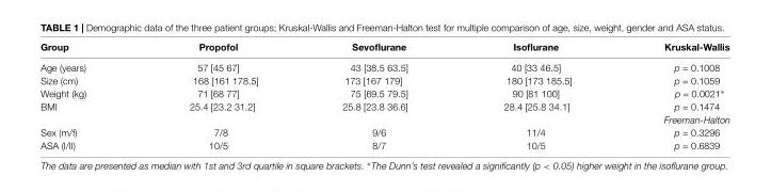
<table><thead><tr><td>Group</td><td>Propofol</td><td>Sevoflurane</td><td>Isoflurane</td><td>Kruskal-Wallis</td></tr></thead><tbody><tr><td>Age (years)</td><td>57 [45 67]</td><td>43 [38.5 63.5]</td><td>40 [33 46.5]</td><td>p = 0.1008</td></tr><tr><td>Size (cm)</td><td>168 [161 178.5]</td><td>173 [167 179]</td><td>180 [173 185.5]</td><td>p = 0.1059</td></tr><tr><td>Weight (kg)</td><td>71 [68 77]</td><td>75 [69.5 79.5]</td><td>90 [81 100]</td><td>p = 0.0021∗</td></tr><tr><td rowspan="2">BMI</td><td>25.4 [23.2 31.2]</td><td>25.8 [23.8 36.6]</td><td>28.4 [25.8 34.1]</td><td>p = 0.1474</td></tr><tr><td></td><td></td><td></td><td>Freeman-Halton</td></tr><tr><td>Sex (m/f)</td><td>7/8</td><td>9/6</td><td>11/4</td><td>p = 0.3296</td></tr><tr><td>ASA (I/II)</td><td>10/5</td><td>8/7</td><td>10/5</td><td>p = 0.6839</td></tr></tbody></table>